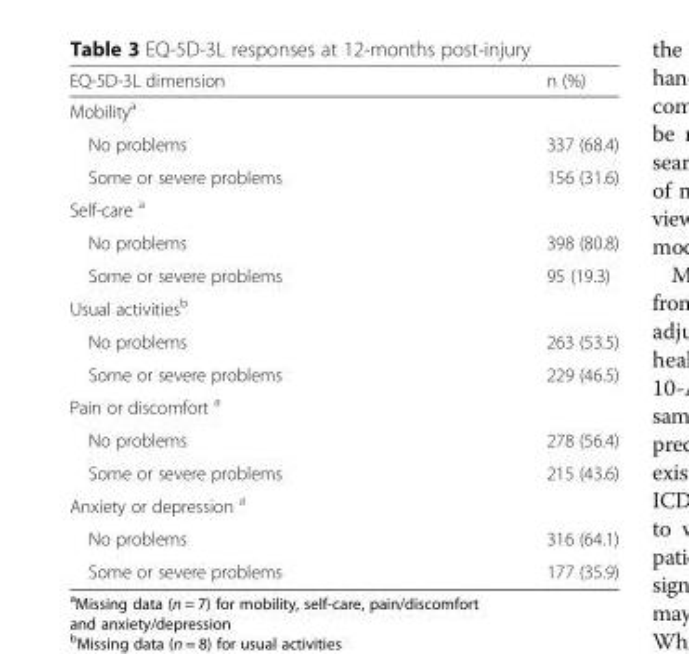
<table><thead><tr><td>EQ-5D-3L dimension</td><td>n (%)</td></tr></thead><tbody><tr><td colspan="2">Mobility<sup>a</sup></td></tr><tr><td>No problems</td><td>337 (68.4)</td></tr><tr><td>Some or severe problems</td><td>156 (31.6)</td></tr><tr><td colspan="2">Self-care <sup>a</sup></td></tr><tr><td>No problems</td><td>398 (80.8)</td></tr><tr><td>Some or severe problems</td><td>95 (19.3)</td></tr><tr><td colspan="2">Usual activities<sup>b</sup></td></tr><tr><td>No problems</td><td>263 (53.5)</td></tr><tr><td>Some or severe problems</td><td>229 (46.5)</td></tr><tr><td colspan="2">Pain or discomfort <sup>a</sup></td></tr><tr><td>No problems</td><td>278 (56.4)</td></tr><tr><td>Some or severe problems</td><td>215 (43.6)</td></tr><tr><td colspan="2">Anxiety or depression <sup>a</sup></td></tr><tr><td>No problems</td><td>316 (64.1)</td></tr><tr><td>Some or severe problems</td><td>177 (35.9)</td></tr></tbody></table>